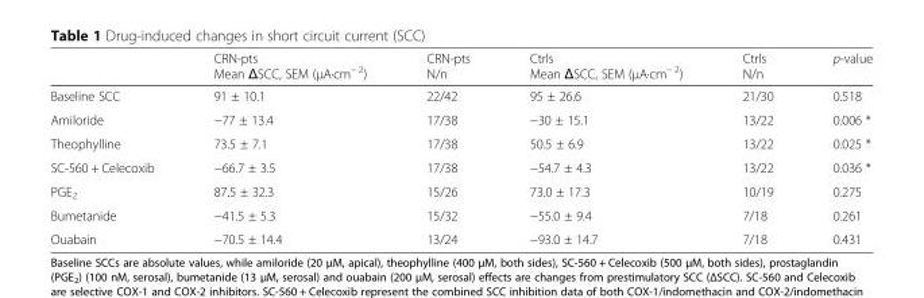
<table><thead><tr><td></td><td>CRN-pts Mean ΔSCC, SEM (μA·cm<sup>− 2</sup>)</td><td>CRN-pts N/n</td><td>Ctrls Mean ΔSCC, SEM (μA·cm<sup>− 2</sup>)</td><td>Ctrls N/n</td><td>p-value</td></tr></thead><tbody><tr><td>Baseline SCC</td><td>91 ± 10.1</td><td>22/42</td><td>95 ± 26.6</td><td>21/30</td><td>0.518</td></tr><tr><td>Amiloride</td><td>−77 ± 13.4</td><td>17/38</td><td>−30 ± 15.1</td><td>13/22</td><td>0.006 *</td></tr><tr><td>Theophylline</td><td>73.5 ± 7.1</td><td>17/38</td><td>50.5 ± 6.9</td><td>13/22</td><td>0.025 *</td></tr><tr><td>SC-560 + Celecoxib</td><td>−66.7 ± 3.5</td><td>17/38</td><td>−54.7 ± 4.3</td><td>13/22</td><td>0.036 *</td></tr><tr><td>PGE<sub>2</sub></td><td>87.5 ± 32.3</td><td>15/26</td><td>73.0 ± 17.3</td><td>10/19</td><td>0.275</td></tr><tr><td>Bumetanide</td><td>−41.5 ± 5.3</td><td>15/32</td><td>−55.0 ± 9.4</td><td>7/18</td><td>0.261</td></tr><tr><td>Ouabain</td><td>−70.5 ± 14.4</td><td>13/24</td><td>−93.0 ± 14.7</td><td>7/18</td><td>0.431</td></tr></tbody></table>